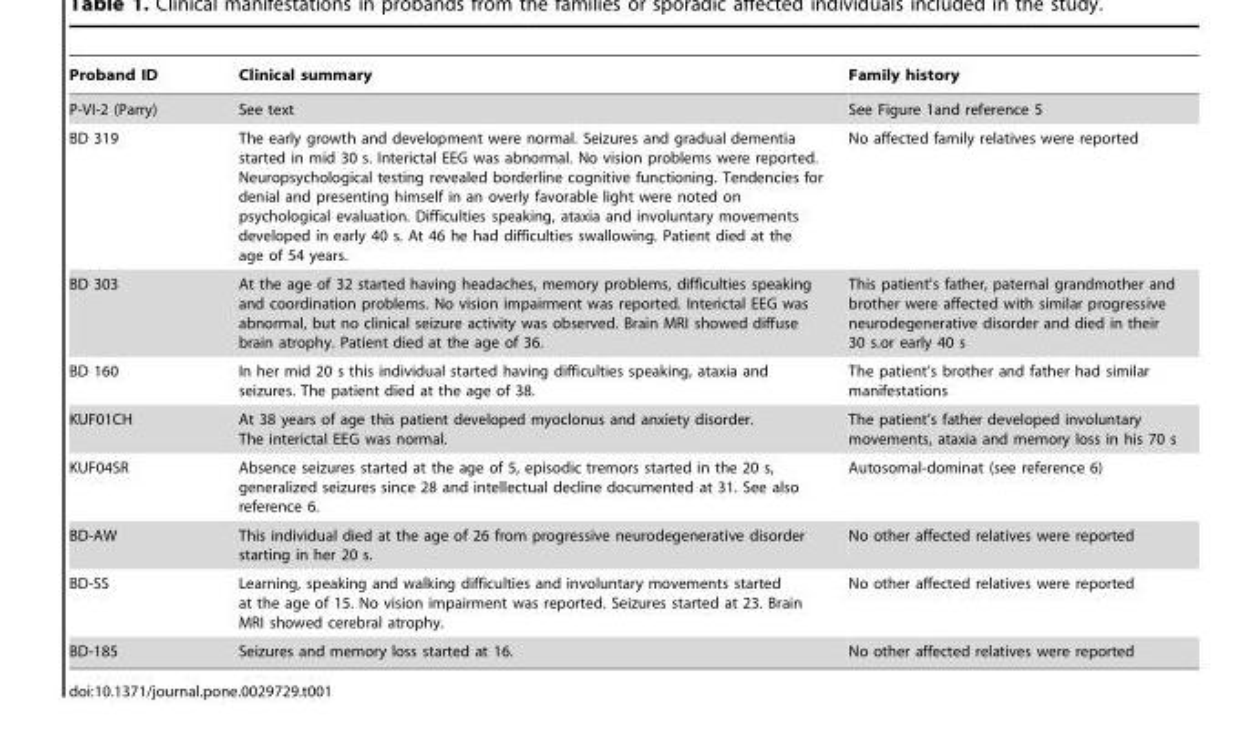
<table><thead><tr><td>Proband ID</td><td>Clinical summary</td><td>Family history</td></tr></thead><tbody><tr><td>P-VI-2 (Parry)</td><td>See text</td><td>See Figure 1and reference 5</td></tr><tr><td>BD 319</td><td>The early growth and development were normal. Seizures and gradual dementia started in mid 30 s. Interictal EEG was abnormal. No vision problems were reported. Neuropsychological testing revealed borderline cognitive functioning. Tendencies for denial and presenting himself in an overly favorable light were noted on psychological evaluation. Difficulties speaking, ataxia and involuntary movements developed in early 40 s. At 46 he had difficulties swallowing. Patient died at the age of 54 years.</td><td>No affected family relatives were reported</td></tr><tr><td>BD 303</td><td>At the age of 32 started having headaches, memory problems, difficulties speaking and coordination problems. No vision impairment was reported. Interictal EEG was abnormal, but no clinical seizure activity was observed. Brain MRI showed diffuse brain atrophy. Patient died at the age of 36.</td><td>This patient’s father, paternal grandmother and brother were affected with similar progressive neurodegenerative disorder and died in their 30 s.or early 40 s</td></tr><tr><td>BD 160</td><td>In her mid 20 s this individual started having difficulties speaking, ataxia and seizures. The patient died at the age of 38.</td><td>The patient’s brother and father had similar manifestations</td></tr><tr><td>KUF01CH</td><td>At 38 years of age this patient developed myoclonus and anxiety disorder. The interictal EEG was normal.</td><td>The patient’s father developed involuntary movements, ataxia and memory loss in his 70 s</td></tr><tr><td>KUF04SR</td><td>Absence seizures started at the age of 5, episodic tremors started in the 20 s, generalized seizures since 28 and intellectual decline documented at 31. See also reference 6.</td><td>Autosomal-dominat (see reference 6)</td></tr><tr><td>BD-AW</td><td>This individual died at the age of 26 from progressive neurodegenerative disorder starting in her 20 s.</td><td>No other affected relatives were reported</td></tr><tr><td>BD-SS</td><td>Learning, speaking and walking difficulties and involuntary movements started at the age of 15. No vision impairment was reported. Seizures started at 23. Brain MRI showed cerebral atrophy.</td><td>No other affected relatives were reported</td></tr><tr><td>BD-185</td><td>Seizures and memory loss started at 16.</td><td>No other affected relatives were reported</td></tr></tbody></table>